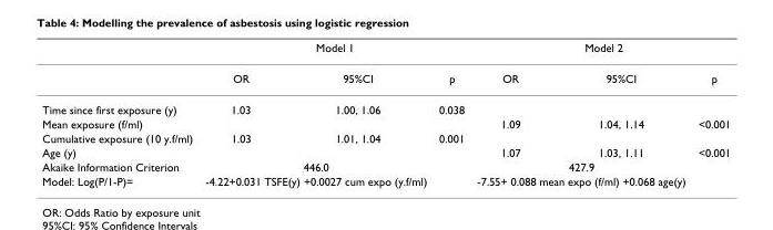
<table><thead><tr><td rowspan="2"></td><td colspan="3">Model 1</td><td colspan="3">Model 2</td></tr><tr><td>OR</td><td>95%CI</td><td>p</td><td>OR</td><td>95%CI</td><td>p</td></tr></thead><tbody><tr><td>Time since first exposure (y)</td><td>1.03</td><td>1.00, 1.06</td><td>0.038</td><td></td><td></td><td></td></tr><tr><td>Mean exposure (f/ml)</td><td></td><td></td><td></td><td>1.09</td><td>1.04, 1.14</td><td>&lt;0.001</td></tr><tr><td>Cumulative exposure (10 y.f/ml)</td><td>1.03</td><td>1.01, 1.04</td><td>0.001</td><td></td><td></td><td></td></tr><tr><td>Age (y)</td><td></td><td></td><td></td><td>1.07</td><td>1.03, 1.11</td><td>&lt;0.001</td></tr><tr><td>Akaike Information Criterion</td><td colspan="2">446.0</td><td></td><td colspan="2">427.9</td><td></td></tr><tr><td>Model: Log(P/1-P)=</td><td colspan="2">-4.22+0.031 TSFE(y) +0.0027 cum expo (y.f/ml)</td><td></td><td colspan="2">-7.55+ 0.088 mean expo (f/ml) +0.068 age(y)</td><td></td></tr></tbody></table>